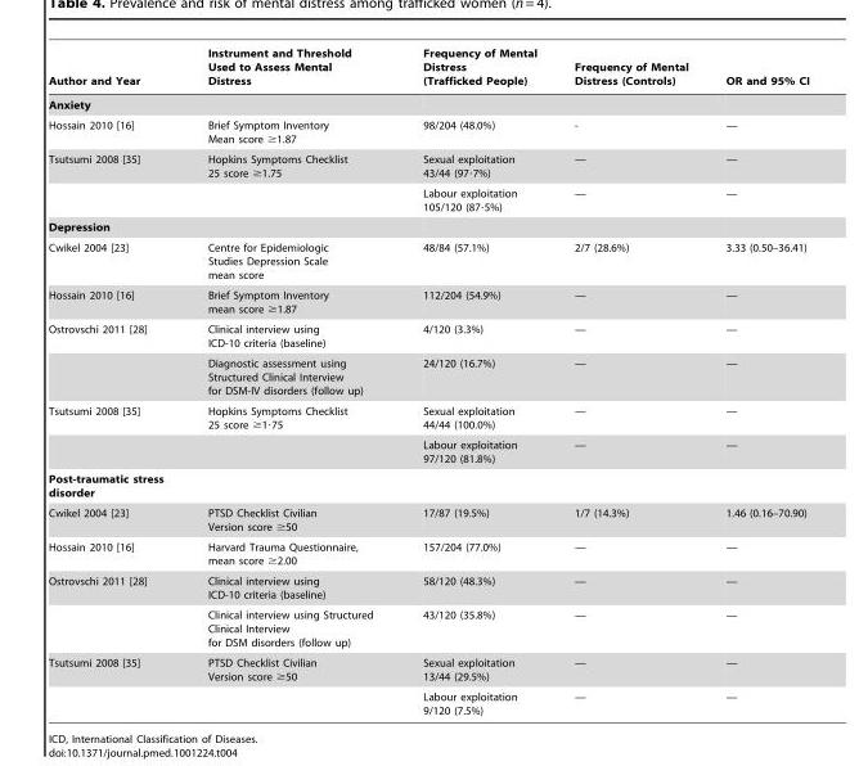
<table><thead><tr><td>Author and Year</td><td>Instrument and Threshold Used to Assess Mental Distress</td><td>Frequency of Mental Distress (Trafficked People)</td><td>Frequency of Mental Distress (Controls)</td><td>OR and 95% CI</td></tr></thead><tbody><tr><td colspan="5">Anxiety</td></tr><tr><td>Hossain 2010 [16]</td><td>Brief Symptom Inventory Mean score ≥1.87</td><td>98/204 (48.0%)</td><td>-</td><td>—</td></tr><tr><td rowspan="2">Tsutsumi 2008 [35]</td><td>Hopkins Symptoms Checklist 25 score ≥1.75</td><td>Sexual exploitation 43/44 (97·7%)</td><td>—</td><td>—</td></tr><tr><td></td><td>Labour exploitation 105/120 (87·5%)</td><td>—</td><td>—</td></tr><tr><td colspan="5">Depression</td></tr><tr><td>Cwikel 2004 [23]</td><td>Centre for Epidemiologic Studies Depression Scale mean score</td><td>48/84 (57.1%)</td><td>2/7 (28.6%)</td><td>3.33 (0.50–36.41)</td></tr><tr><td>Hossain 2010 [16]</td><td>Brief Symptom Inventory mean score ≥1.87</td><td>112/204 (54.9%)</td><td>—</td><td>—</td></tr><tr><td rowspan="2">Ostrovschi 2011 [28]</td><td>Clinical interview using ICD-10 criteria (baseline)</td><td>4/120 (3.3%)</td><td>—</td><td>—</td></tr><tr><td>Diagnostic assessment using Structured Clinical Interview for DSM-IV disorders (follow up)</td><td>24/120 (16.7%)</td><td>—</td><td>—</td></tr><tr><td rowspan="2">Tsutsumi 2008 [35]</td><td>Hopkins Symptoms Checklist 25 score ≥1·75</td><td>Sexual exploitation 44/44 (100.0%)</td><td>—</td><td>—</td></tr><tr><td></td><td>Labour exploitation 97/120 (81.8%)</td><td>—</td><td>—</td></tr><tr><td colspan="5">Post-traumatic stress disorder</td></tr><tr><td>Cwikel 2004 [23]</td><td>PTSD Checklist Civilian Version score ≥50</td><td>17/87 (19.5%)</td><td>1/7 (14.3%)</td><td>1.46 (0.16–70.90)</td></tr><tr><td>Hossain 2010 [16]</td><td>Harvard Trauma Questionnaire, mean score ≥2.00</td><td>157/204 (77.0%)</td><td>—</td><td>—</td></tr><tr><td rowspan="2">Ostrovschi 2011 [28]</td><td>Clinical interview using ICD-10 criteria (baseline)</td><td>58/120 (48.3%)</td><td>—</td><td>—</td></tr><tr><td>Clinical interview using Structured Clinical Interview for DSM disorders (follow up)</td><td>43/120 (35.8%)</td><td>—</td><td>—</td></tr><tr><td rowspan="2">Tsutsumi 2008 [35]</td><td>PTSD Checklist Civilian Version score ≥50</td><td>Sexual exploitation 13/44 (29.5%)</td><td>—</td><td>—</td></tr><tr><td></td><td>Labour exploitation 9/120 (7.5%)</td><td>—</td><td>—</td></tr></tbody></table>